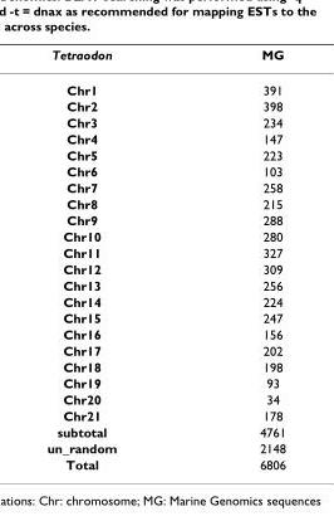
<table><thead><tr><td>Tetraodon</td><td>MG</td></tr></thead><tbody><tr><td>Chr1</td><td>391</td></tr><tr><td>Chr2</td><td>398</td></tr><tr><td>Chr3</td><td>234</td></tr><tr><td>Chr4</td><td>147</td></tr><tr><td>Chr5</td><td>223</td></tr><tr><td>Chr6</td><td>103</td></tr><tr><td>Chr7</td><td>258</td></tr><tr><td>Chr8</td><td>215</td></tr><tr><td>Chr9</td><td>288</td></tr><tr><td>Chr10</td><td>280</td></tr><tr><td>Chr11</td><td>327</td></tr><tr><td>Chr12</td><td>309</td></tr><tr><td>Chr13</td><td>256</td></tr><tr><td>Chr14</td><td>224</td></tr><tr><td>Chr15</td><td>247</td></tr><tr><td>Chr16</td><td>156</td></tr><tr><td>Chr17</td><td>202</td></tr><tr><td>Chr18</td><td>198</td></tr><tr><td>Chr19</td><td>93</td></tr><tr><td>Chr20</td><td>34</td></tr><tr><td>Chr21</td><td>178</td></tr><tr><td>subtotal</td><td>4761</td></tr><tr><td>un_random</td><td>2148</td></tr><tr><td>Total</td><td>6806</td></tr></tbody></table>